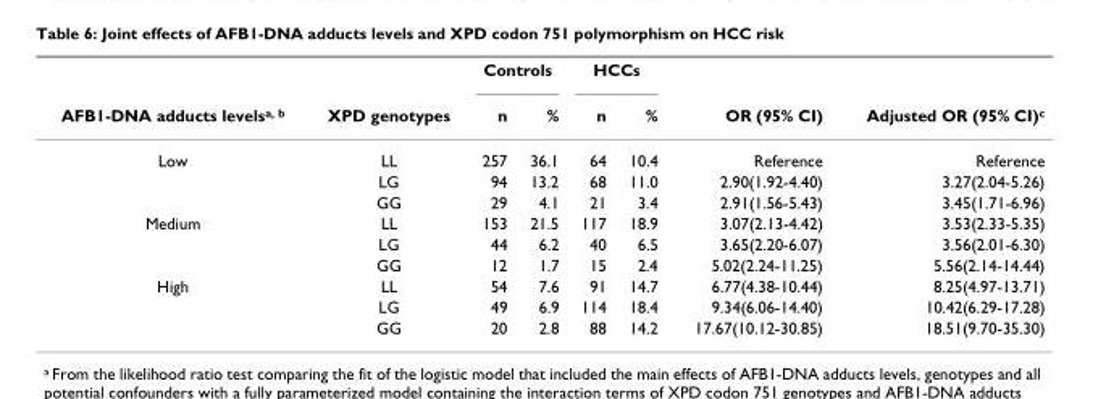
<table><thead><tr><td rowspan="2">AFB1-DNA adducts levels<sup>a, b</sup></td><td rowspan="2">XPD genotypes</td><td colspan="2">Controls</td><td colspan="2">HCCs</td><td rowspan="2">OR (95% CI)</td><td rowspan="2">Adjusted OR (95% CI)<sup>c</sup></td></tr><tr><td>n</td><td>%</td><td>n</td><td>%</td></tr></thead><tbody><tr><td rowspan="3">Low</td><td>LL</td><td>257</td><td>36.1</td><td>64</td><td>10.4</td><td>Reference</td><td>Reference</td></tr><tr><td>LG</td><td>94</td><td>13.2</td><td>68</td><td>11.0</td><td>2.90(1.92-4.40)</td><td>3.27(2.04-5.26)</td></tr><tr><td>GG</td><td>29</td><td>4.1</td><td>21</td><td>3.4</td><td>2.91(1.56-5.43)</td><td>3.45(1.71-6.96)</td></tr><tr><td rowspan="3">Medium</td><td>LL</td><td>153</td><td>21.5</td><td>117</td><td>18.9</td><td>3.07(2.13-4.42)</td><td>3.53(2.33-5.35)</td></tr><tr><td>LG</td><td>44</td><td>6.2</td><td>40</td><td>6.5</td><td>3.65(2.20-6.07)</td><td>3.56(2.01-6.30)</td></tr><tr><td>GG</td><td>12</td><td>1.7</td><td>15</td><td>2.4</td><td>5.02(2.24-11.25)</td><td>5.56(2.14-14.44)</td></tr><tr><td rowspan="3">High</td><td>LL</td><td>54</td><td>7.6</td><td>91</td><td>14.7</td><td>6.77(4.38-10.44)</td><td>8.25(4.97-13.71)</td></tr><tr><td>LG</td><td>49</td><td>6.9</td><td>114</td><td>18.4</td><td>9.34(6.06-14.40)</td><td>10.42(6.29-17.28)</td></tr><tr><td>GG</td><td>20</td><td>2.8</td><td>88</td><td>14.2</td><td>17.67(10.12-30.85)</td><td>18.51(9.70-35.30)</td></tr></tbody></table>